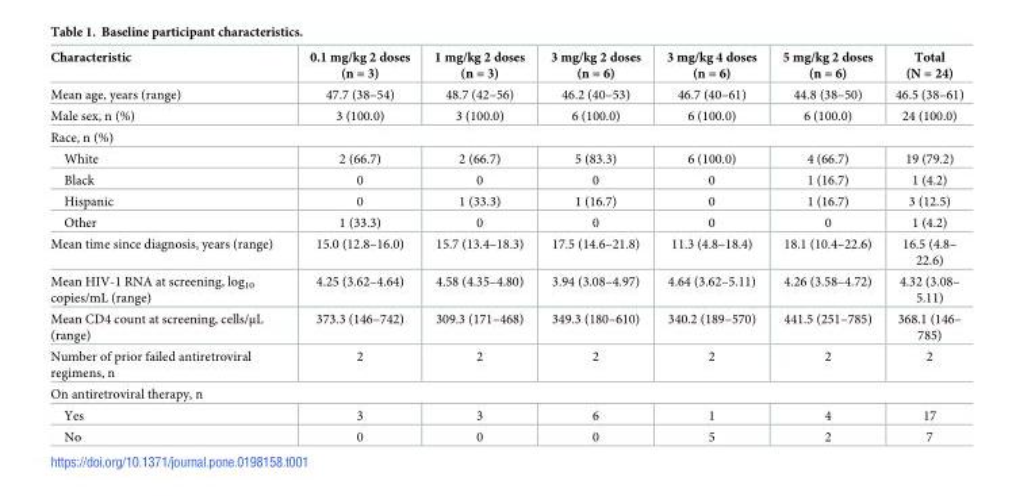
<table><thead><tr><td>Characteristic</td><td>0.1 mg/kg 2 doses (n = 3)</td><td>1 mg/kg 2 doses (n = 3)</td><td>3 mg/kg 2 doses (n = 6)</td><td>3 mg/kg 4 doses (n = 6)</td><td>5 mg/kg 2 doses (n = 6)</td><td>Total (N = 24)</td></tr></thead><tbody><tr><td>Mean age, years (range)</td><td>47.7 (38–54)</td><td>48.7 (42–56)</td><td>46.2 (40–53)</td><td>46.7 (40–61)</td><td>44.8 (38–50)</td><td>46.5 (38–61)</td></tr><tr><td>Male sex, n (%)</td><td>3 (100.0)</td><td>3 (100.0)</td><td>6 (100.0)</td><td>6 (100.0)</td><td>6 (100.0)</td><td>24 (100.0)</td></tr><tr><td colspan="7">Race, n (%)</td></tr><tr><td>White</td><td>2 (66.7)</td><td>2 (66.7)</td><td>5 (83.3)</td><td>6 (100.0)</td><td>4 (66.7)</td><td>19 (79.2)</td></tr><tr><td>Black</td><td>0</td><td>0</td><td>0</td><td>0</td><td>1 (16.7)</td><td>1 (4.2)</td></tr><tr><td>Hispanic</td><td>0</td><td>1 (33.3)</td><td>1 (16.7)</td><td>0</td><td>1 (16.7)</td><td>3 (12.5)</td></tr><tr><td>Other</td><td>1 (33.3)</td><td>0</td><td>0</td><td>0</td><td>0</td><td>1 (4.2)</td></tr><tr><td>Mean time since diagnosis, years (range)</td><td>15.0 (12.8–16.0)</td><td>15.7 (13.4–18.3)</td><td>17.5 (14.6–21.8)</td><td>11.3 (4.8–18.4)</td><td>18.1 (10.4–22.6)</td><td>16.5 (4.8– 22.6)</td></tr><tr><td>Mean HIV-1 RNA at screening, log<sub>10</sub> copies/mL (range)</td><td>4.25 (3.62–4.64)</td><td>4.58 (4.35–4.80)</td><td>3.94 (3.08–4.97)</td><td>4.64 (3.62–5.11)</td><td>4.26 (3.58–4.72)</td><td>4.32 (3.08– 5.11)</td></tr><tr><td>Mean CD4 count at screening, cells/μL (range)</td><td>373.3 (146–742)</td><td>309.3 (171–468)</td><td>349.3 (180–610)</td><td>340.2 (189–570)</td><td>441.5 (251–785)</td><td>368.1 (146– 785)</td></tr><tr><td>Number of prior failed antiretroviral regimens, n</td><td>2</td><td>2</td><td>2</td><td>2</td><td>2</td><td>2</td></tr><tr><td colspan="7">On antiretroviral therapy, n</td></tr><tr><td>Yes</td><td>3</td><td>3</td><td>6</td><td>1</td><td>4</td><td>17</td></tr><tr><td>No</td><td>0</td><td>0</td><td>0</td><td>5</td><td>2</td><td>7</td></tr></tbody></table>